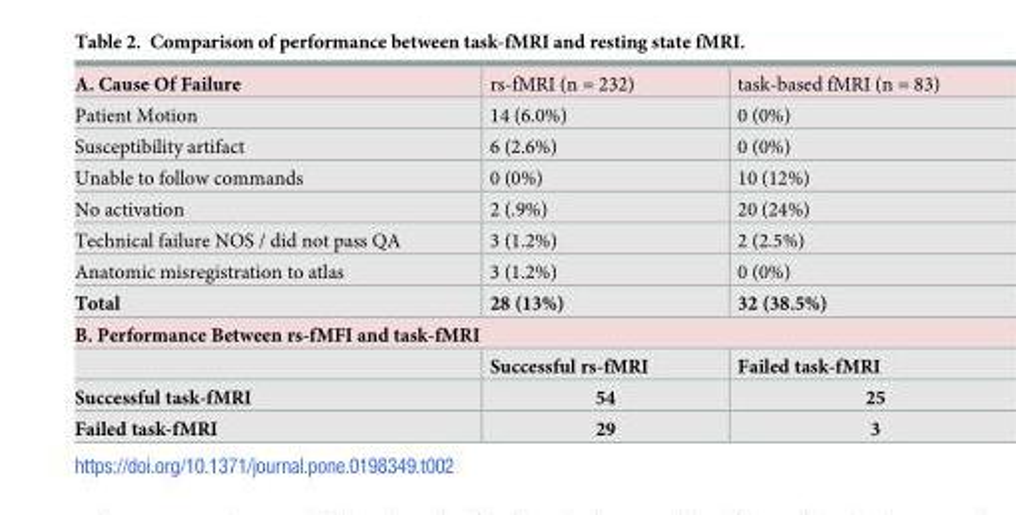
<table><tbody><tr><td>A. Cause Of Failure</td><td>rs-fMRI (n = 232)</td><td>task-based fMRI (n = 83)</td></tr><tr><td>Patient Motion</td><td>14 (6.0%)</td><td>0 (0%)</td></tr><tr><td>Susceptibility artifact</td><td>6 (2.6%)</td><td>0 (0%)</td></tr><tr><td>Unable to follow commands</td><td>0 (0%)</td><td>10 (12%)</td></tr><tr><td>No activation</td><td>2 (.9%)</td><td>20 (24%)</td></tr><tr><td>Technical failure NOS / did not pass QA</td><td>3 (1.2%)</td><td>2 (2.5%)</td></tr><tr><td>Anatomic misregistration to atlas</td><td>3 (1.2%)</td><td>0 (0%)</td></tr><tr><td>Total</td><td>28 (13%)</td><td>32 (38.5%)</td></tr><tr><td colspan="3">B. Performance Between rs-fMFI and task-fMRI</td></tr><tr><td></td><td>Successful rs-fMRI</td><td>Failed task-fMRI</td></tr><tr><td>Successful task-fMRI</td><td>54</td><td>25</td></tr><tr><td>Failed task-fMRI</td><td>29</td><td>3</td></tr></tbody></table>